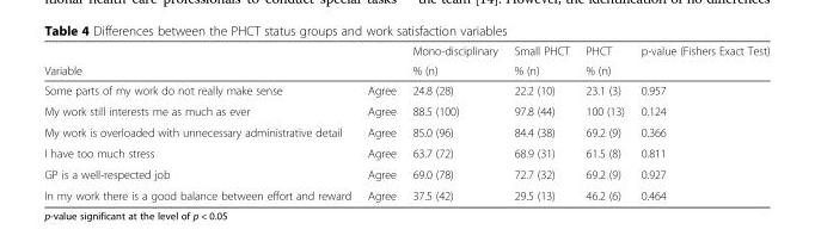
<table><thead><tr><td rowspan="2">Variable</td><td rowspan="2"></td><td rowspan="2">Mono-disciplinary % (n)</td><td rowspan="2">Small PHCT % (n)</td><td rowspan="2">PHCT % (n)</td><td rowspan="2">p-value (Fishers Exact Test)</td></tr><tr></tr></thead><tbody><tr><td>Some parts of my work do not really make sense</td><td>Agree</td><td>24.8 (28)</td><td>22.2 (10)</td><td>23.1 (3)</td><td>0.957</td></tr><tr><td>My work still interests me as much as ever</td><td>Agree</td><td>88.5 (100)</td><td>97.8 (44)</td><td>100 (13)</td><td>0.124</td></tr><tr><td>My work is overloaded with unnecessary administrative detail</td><td>Agree</td><td>85.0 (96)</td><td>84.4 (38)</td><td>69.2 (9)</td><td>0.366</td></tr><tr><td>I have too much stress</td><td>Agree</td><td>63.7 (72)</td><td>68.9 (31)</td><td>61.5 (8)</td><td>0.811</td></tr><tr><td>GP is a well-respected job</td><td>Agree</td><td>69.0 (78)</td><td>72.7 (32)</td><td>69.2 (9)</td><td>0.927</td></tr><tr><td>In my work there is a good balance between effort and reward</td><td>Agree</td><td>37.5 (42)</td><td>29.5 (13)</td><td>46.2 (6)</td><td>0.464</td></tr></tbody></table>